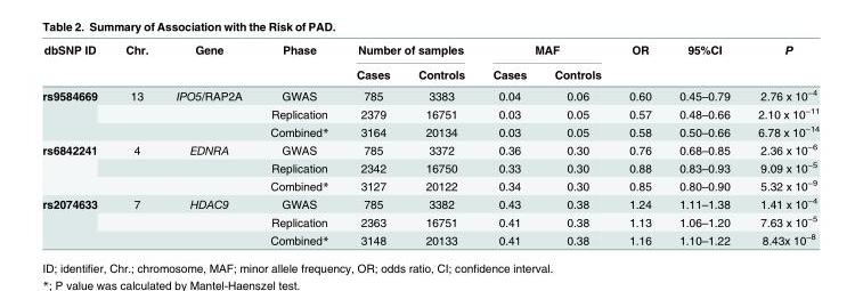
<table><thead><tr><td rowspan="2">dbSNP ID</td><td rowspan="2">Chr.</td><td rowspan="2">Gene</td><td rowspan="2">Phase</td><td colspan="2">Number of samples</td><td colspan="2">MAF</td><td rowspan="2">OR</td><td rowspan="2">95%CI</td><td rowspan="2">P</td></tr><tr><td>Cases</td><td>Controls</td><td>Cases</td><td>Controls</td></tr></thead><tbody><tr><td rowspan="3">rs9584669</td><td>13</td><td>IPO5/RAP2A</td><td>GWAS</td><td>785</td><td>3383</td><td>0.04</td><td>0.06</td><td>0.60</td><td>0.45–0.79</td><td>2.76 x 10<sup>−4</sup></td></tr><tr><td></td><td></td><td>Replication</td><td>2379</td><td>16751</td><td>0.03</td><td>0.05</td><td>0.57</td><td>0.48–0.66</td><td>2.10 x 10<sup>−11</sup></td></tr><tr><td></td><td></td><td>Combined*</td><td>3164</td><td>20134</td><td>0.03</td><td>0.05</td><td>0.58</td><td>0.50–0.66</td><td>6.78 x 10<sup>−14</sup></td></tr><tr><td rowspan="3">rs6842241</td><td>4</td><td>EDNRA</td><td>GWAS</td><td>785</td><td>3372</td><td>0.36</td><td>0.30</td><td>0.76</td><td>0.68–0.85</td><td>2.36 x 10<sup>−6</sup></td></tr><tr><td></td><td></td><td>Replication</td><td>2342</td><td>16750</td><td>0.33</td><td>0.30</td><td>0.88</td><td>0.83–0.93</td><td>9.09 x 10<sup>−5</sup></td></tr><tr><td></td><td></td><td>Combined*</td><td>3127</td><td>20122</td><td>0.34</td><td>0.30</td><td>0.85</td><td>0.80–0.90</td><td>5.32 x 10<sup>−9</sup></td></tr><tr><td rowspan="3">rs2074633</td><td>7</td><td>HDAC9</td><td>GWAS</td><td>785</td><td>3382</td><td>0.43</td><td>0.38</td><td>1.24</td><td>1.11–1.38</td><td>1.41 x 10<sup>−4</sup></td></tr><tr><td></td><td></td><td>Replication</td><td>2363</td><td>16751</td><td>0.41</td><td>0.38</td><td>1.13</td><td>1.06–1.20</td><td>7.63 x 10<sup>−5</sup></td></tr><tr><td></td><td></td><td>Combined*</td><td>3148</td><td>20133</td><td>0.41</td><td>0.38</td><td>1.16</td><td>1.10–1.22</td><td>8.43x 10<sup>−8</sup></td></tr></tbody></table>